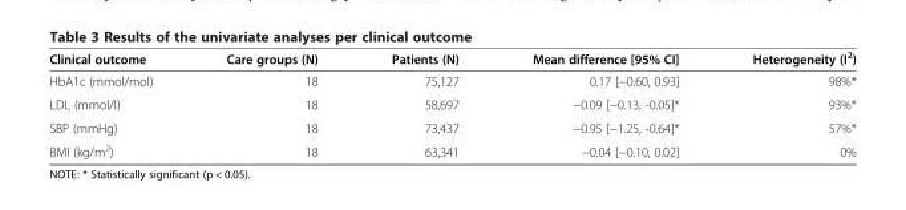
<table><thead><tr><td>Clinical outcome</td><td>Care groups (N)</td><td>Patients (N)</td><td>Mean difference [95% CI]</td><td>Heterogeneity (I<sup>2</sup>)</td></tr></thead><tbody><tr><td>HbA1c (mmol/mol)</td><td>18</td><td>75,127</td><td>0.17 [−0.60, 0.93]</td><td>98%*</td></tr><tr><td>LDL (mmol/l)</td><td>18</td><td>58,697</td><td>−0.09 [−0.13, -0.05]*</td><td>93%*</td></tr><tr><td>SBP (mmHg)</td><td>18</td><td>73,437</td><td>−0.95 [−1.25, -0.64]*</td><td>57%*</td></tr><tr><td>BMI (kg/m<sup>2</sup>)</td><td>18</td><td>63,341</td><td>−0.04 [−0.10, 0.02]</td><td>0%</td></tr></tbody></table>